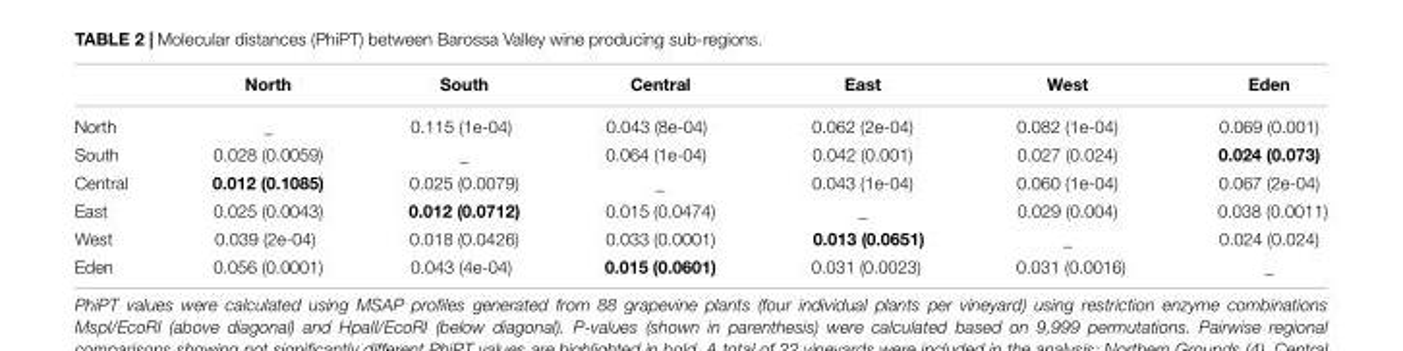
<table><thead><tr><td></td><td>North</td><td>South</td><td>Central</td><td>East</td><td>West</td><td>Eden</td></tr></thead><tbody><tr><td>North</td><td>_</td><td>0.115 (1e-04)</td><td>0.043 (8e-04)</td><td>0.062 (2e-04)</td><td>0.082 (1e-04)</td><td>0.069 (0.001)</td></tr><tr><td>South</td><td>0.028 (0.0059)</td><td>_</td><td>0.064 (1e-04)</td><td>0.042 (0.001)</td><td>0.027 (0.024)</td><td>0.024 (0.073)</td></tr><tr><td>Central</td><td>0.012 (0.1085)</td><td>0.025 (0.0079)</td><td>_</td><td>0.043 (1e-04)</td><td>0.060 (1e-04)</td><td>0.067 (2e-04)</td></tr><tr><td>East</td><td>0.025 (0.0043)</td><td>0.012 (0.0712)</td><td>0.015 (0.0474)</td><td>_</td><td>0.029 (0.004)</td><td>0.038 (0.0011)</td></tr><tr><td>West</td><td>0.039 (2e-04)</td><td>0.018 (0.0426)</td><td>0.033 (0.0001)</td><td>0.013 (0.0651)</td><td>_</td><td>0.024 (0.024)</td></tr><tr><td>Eden</td><td>0.056 (0.0001)</td><td>0.043 (4e-04)</td><td>0.015 (0.0601)</td><td>0.031 (0.0023)</td><td>0.031 (0.0016)</td><td>_</td></tr></tbody></table>